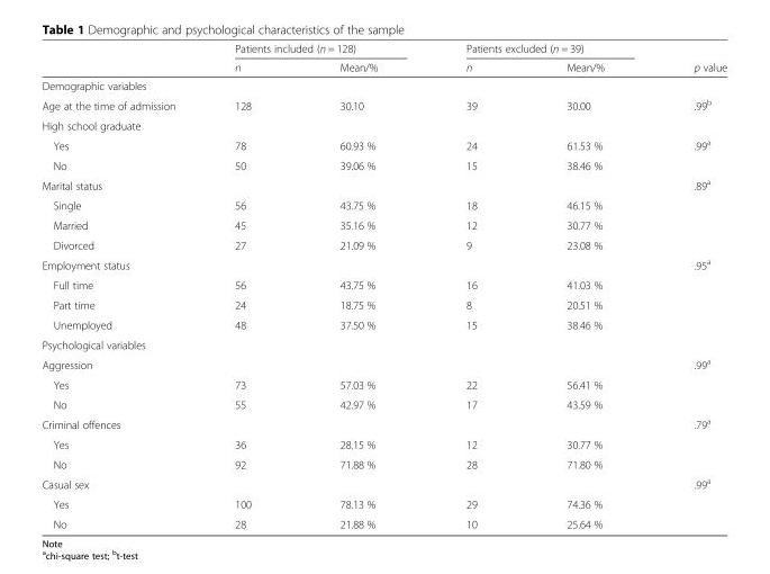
<table><thead><tr><td rowspan="2"></td><td colspan="2">Patients included (n = 128)</td><td colspan="2">Patients excluded (n = 39)</td><td rowspan="2">p value</td></tr><tr><td>n</td><td>Mean/%</td><td>n</td><td>Mean/%</td></tr></thead><tbody><tr><td colspan="6">Demographic variables</td></tr><tr><td>Age at the time of admission</td><td>128</td><td>30.10</td><td>39</td><td>30.00</td><td>.99<sup>b</sup></td></tr><tr><td colspan="6">High school graduate</td></tr><tr><td>Yes</td><td>78</td><td>60.93 %</td><td>24</td><td>61.53 %</td><td>.99<sup>a</sup></td></tr><tr><td>No</td><td>50</td><td>39.06 %</td><td>15</td><td>38.46 %</td><td></td></tr><tr><td>Marital status</td><td></td><td></td><td></td><td></td><td>.89<sup>a</sup></td></tr><tr><td>Single</td><td>56</td><td>43.75 %</td><td>18</td><td>46.15 %</td><td></td></tr><tr><td>Married</td><td>45</td><td>35.16 %</td><td>12</td><td>30.77 %</td><td></td></tr><tr><td>Divorced</td><td>27</td><td>21.09 %</td><td>9</td><td>23.08 %</td><td></td></tr><tr><td>Employment status</td><td></td><td></td><td></td><td></td><td>.95<sup>a</sup></td></tr><tr><td>Full time</td><td>56</td><td>43.75 %</td><td>16</td><td>41.03 %</td><td></td></tr><tr><td>Part time</td><td>24</td><td>18.75 %</td><td>8</td><td>20.51 %</td><td></td></tr><tr><td>Unemployed</td><td>48</td><td>37.50 %</td><td>15</td><td>38.46 %</td><td></td></tr><tr><td colspan="6">Psychological variables</td></tr><tr><td>Aggression</td><td></td><td></td><td></td><td></td><td>.99<sup>a</sup></td></tr><tr><td>Yes</td><td>73</td><td>57.03 %</td><td>22</td><td>56.41 %</td><td></td></tr><tr><td>No</td><td>55</td><td>42.97 %</td><td>17</td><td>43.59 %</td><td></td></tr><tr><td>Criminal offences</td><td></td><td></td><td></td><td></td><td>.79<sup>a</sup></td></tr><tr><td>Yes</td><td>36</td><td>28.15 %</td><td>12</td><td>30.77 %</td><td></td></tr><tr><td>No</td><td>92</td><td>71.88 %</td><td>28</td><td>71.80 %</td><td></td></tr><tr><td>Casual sex</td><td></td><td></td><td></td><td></td><td>.99<sup>a</sup></td></tr><tr><td>Yes</td><td>100</td><td>78.13 %</td><td>29</td><td>74.36 %</td><td></td></tr><tr><td>No</td><td>28</td><td>21.88 %</td><td>10</td><td>25.64 %</td><td></td></tr></tbody></table>